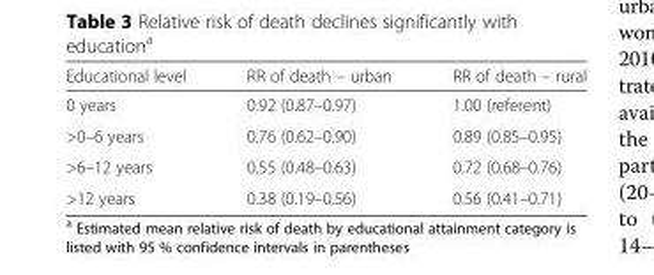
<table><thead><tr><td>Educational level</td><td>RR of death – urban</td><td>RR of death – rural</td></tr></thead><tbody><tr><td>0 years</td><td>0.92 (0.87–0.97)</td><td>1.00 (referent)</td></tr><tr><td>&gt;0–6 years</td><td>0.76 (0.62–0.90)</td><td>0.89 (0.85–0.95)</td></tr><tr><td>&gt;6–12 years</td><td>0.55 (0.48–0.63)</td><td>0.72 (0.68–0.76)</td></tr><tr><td>&gt;12 years</td><td>0.38 (0.19–0.56)</td><td>0.56 (0.41–0.71)</td></tr></tbody></table>